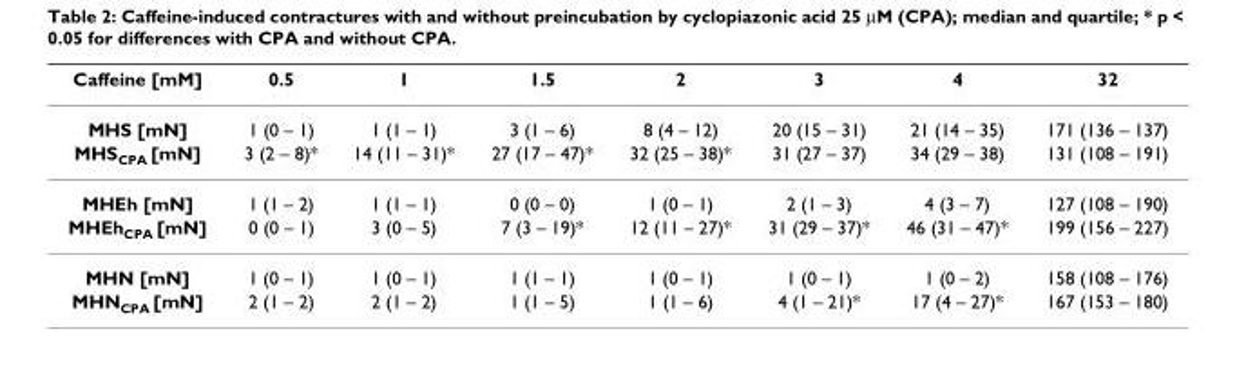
<table><thead><tr><td>Caffeine [mM]</td><td>0.5</td><td>1</td><td>1.5</td><td>2</td><td>3</td><td>4</td><td>32</td></tr></thead><tbody><tr><td>MHS [mN]</td><td>1 (0 – 1)</td><td>1 (1 – 1)</td><td>3 (1 – 6)</td><td>8 (4 – 12)</td><td>20 (15 – 31)</td><td>21 (14 – 35)</td><td>171 (136 – 137)</td></tr><tr><td>MHS<sub>CPA</sub> [mN]</td><td>3 (2 – 8)*</td><td>14 (11 – 31)*</td><td>27 (17 – 47)*</td><td>32 (25 – 38)*</td><td>31 (27 – 37)</td><td>34 (29 – 38)</td><td>131 (108 – 191)</td></tr><tr><td>MHEh [mN]</td><td>1 (1 – 2)</td><td>1 (1 – 1)</td><td>0 (0 – 0)</td><td>1 (0 – 1)</td><td>2 (1 – 3)</td><td>4 (3 – 7)</td><td>127 (108 – 190)</td></tr><tr><td>MHEh<sub>CPA</sub> [mN]</td><td>0 (0 – 1)</td><td>3 (0 – 5)</td><td>7 (3 – 19)*</td><td>12 (11 – 27)*</td><td>31 (29 – 37)*</td><td>46 (31 – 47)*</td><td>199 (156 – 227)</td></tr><tr><td>MHN [mN]</td><td>1 (0 – 1)</td><td>1 (0 – 1)</td><td>1 (1 – 1)</td><td>1 (0 – 1)</td><td>1 (0 – 1)</td><td>1 (0 – 2)</td><td>158 (108 – 176)</td></tr><tr><td>MHN<sub>CPA</sub> [mN]</td><td>2 (1 – 2)</td><td>2 (1 – 2)</td><td>1 (1 – 5)</td><td>1 (1 – 6)</td><td>4 (1 – 21)*</td><td>17 (4 – 27)*</td><td>167 (153 – 180)</td></tr></tbody></table>